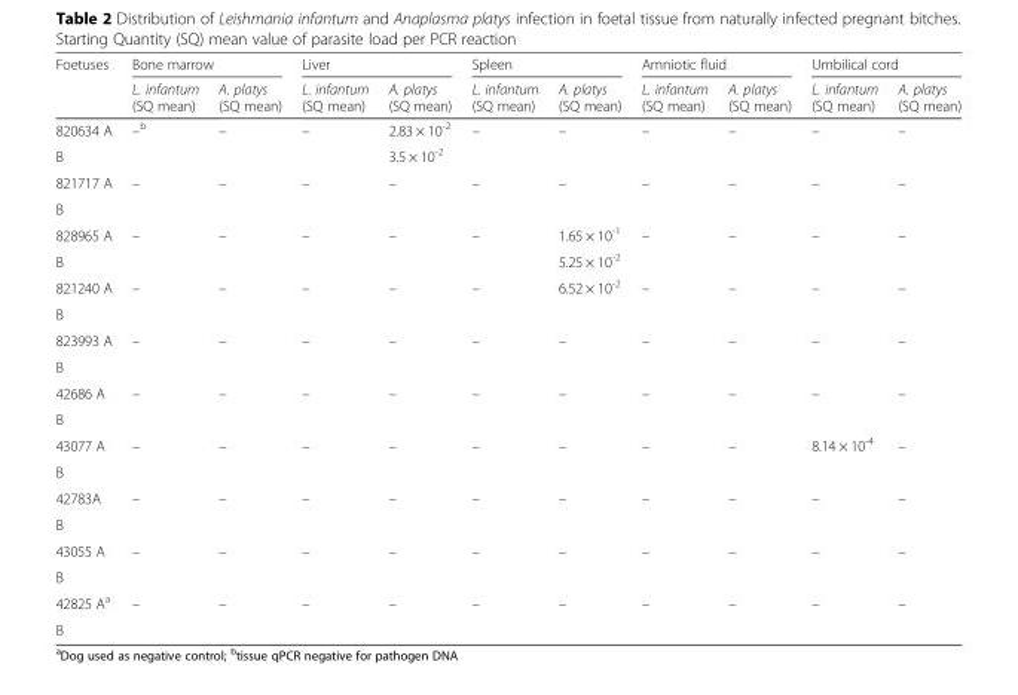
<table><thead><tr><td rowspan="2">Foetuses</td><td colspan="2">Bone marrow</td><td colspan="2">Liver</td><td colspan="2">Spleen</td><td colspan="2">Amniotic fluid</td><td colspan="2">Umbilical cord</td></tr><tr><td>L. infantum (SQ mean)</td><td>A. platys (SQ mean)</td><td>L. infantum (SQ mean)</td><td>A. platys (SQ mean)</td><td>L. infantum (SQ mean)</td><td>A. platys (SQ mean)</td><td>L. infantum (SQ mean)</td><td>A. platys (SQ mean)</td><td>L. infantum (SQ mean)</td><td>A. platys (SQ mean)</td></tr></thead><tbody><tr><td>820634 A</td><td>–<sup>b</sup></td><td>–</td><td>–</td><td>2.83 × 10<sup>-2</sup></td><td>–</td><td>–</td><td>–</td><td>–</td><td>–</td><td>–</td></tr><tr><td>B</td><td></td><td></td><td></td><td>3.5 × 10<sup>-2</sup></td><td></td><td></td><td></td><td></td><td></td><td></td></tr><tr><td>821717 A</td><td>–</td><td>–</td><td>–</td><td>–</td><td>–</td><td>–</td><td>–</td><td>–</td><td>–</td><td>–</td></tr><tr><td colspan="11">B</td></tr><tr><td>828965 A</td><td>–</td><td>–</td><td>–</td><td>–</td><td>–</td><td>1.65 × 10<sup>-1</sup></td><td>–</td><td>–</td><td>–</td><td>–</td></tr><tr><td>B</td><td></td><td></td><td></td><td></td><td></td><td>5.25 × 10<sup>-2</sup></td><td></td><td></td><td></td><td></td></tr><tr><td>821240 A</td><td>–</td><td>–</td><td>–</td><td>–</td><td>–</td><td>6.52 × 10<sup>-2</sup></td><td>–</td><td>–</td><td>–</td><td>–</td></tr><tr><td colspan="11">B</td></tr><tr><td>823993 A</td><td>–</td><td>–</td><td>–</td><td>–</td><td>–</td><td>–</td><td>–</td><td>–</td><td>–</td><td>–</td></tr><tr><td colspan="11">B</td></tr><tr><td>42686 A</td><td>–</td><td>–</td><td>–</td><td>–</td><td>–</td><td>–</td><td>–</td><td>–</td><td>–</td><td>–</td></tr><tr><td colspan="11">B</td></tr><tr><td>43077 A</td><td>–</td><td>–</td><td>–</td><td>–</td><td>–</td><td>–</td><td>–</td><td>–</td><td>8.14 × 10<sup>-4</sup></td><td>–</td></tr><tr><td colspan="11">B</td></tr><tr><td>42783A</td><td>–</td><td>–</td><td>–</td><td>–</td><td>–</td><td>–</td><td>–</td><td>–</td><td>–</td><td>–</td></tr><tr><td colspan="11">B</td></tr><tr><td>43055 A</td><td>–</td><td>–</td><td>–</td><td>–</td><td>–</td><td>–</td><td>–</td><td>–</td><td>–</td><td>–</td></tr><tr><td colspan="11">B</td></tr><tr><td>42825 A<sup>a</sup></td><td>–</td><td>–</td><td>–</td><td>–</td><td>–</td><td>–</td><td>–</td><td>–</td><td>–</td><td>–</td></tr><tr><td>B</td><td></td><td></td><td></td><td></td><td></td><td></td><td></td><td></td><td></td><td></td></tr></tbody></table>